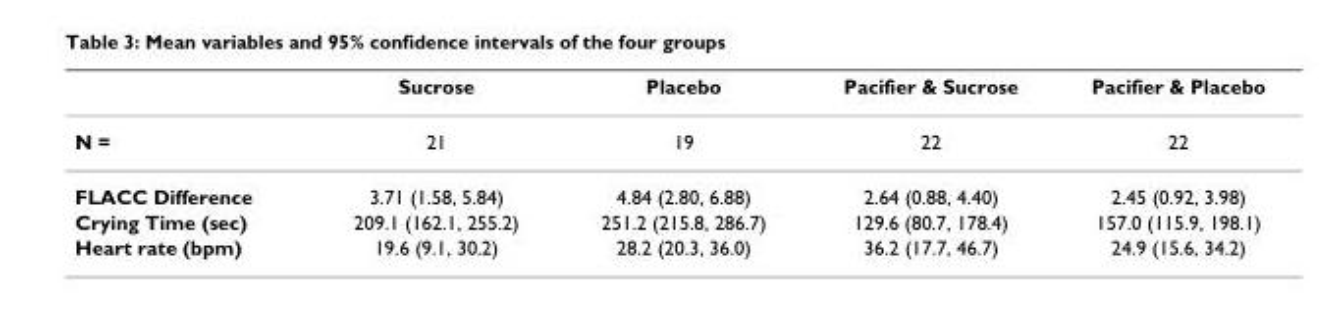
<table><thead><tr><td></td><td>Sucrose</td><td>Placebo</td><td>Pacifier &amp; Sucrose</td><td>Pacifier &amp; Placebo</td></tr></thead><tbody><tr><td>N =</td><td>21</td><td>19</td><td>22</td><td>22</td></tr><tr><td>FLACC Difference</td><td>3.71 (1.58, 5.84)</td><td>4.84 (2.80, 6.88)</td><td>2.64 (0.88, 4.40)</td><td>2.45 (0.92, 3.98)</td></tr><tr><td>Crying Time (sec)</td><td>209.1 (162.1, 255.2)</td><td>251.2 (215.8, 286.7)</td><td>129.6 (80.7, 178.4)</td><td>157.0 (115.9, 198.1)</td></tr><tr><td>Heart rate (bpm)</td><td>19.6 (9.1, 30.2)</td><td>28.2 (20.3, 36.0)</td><td>36.2 (17.7, 46.7)</td><td>24.9 (15.6, 34.2)</td></tr></tbody></table>